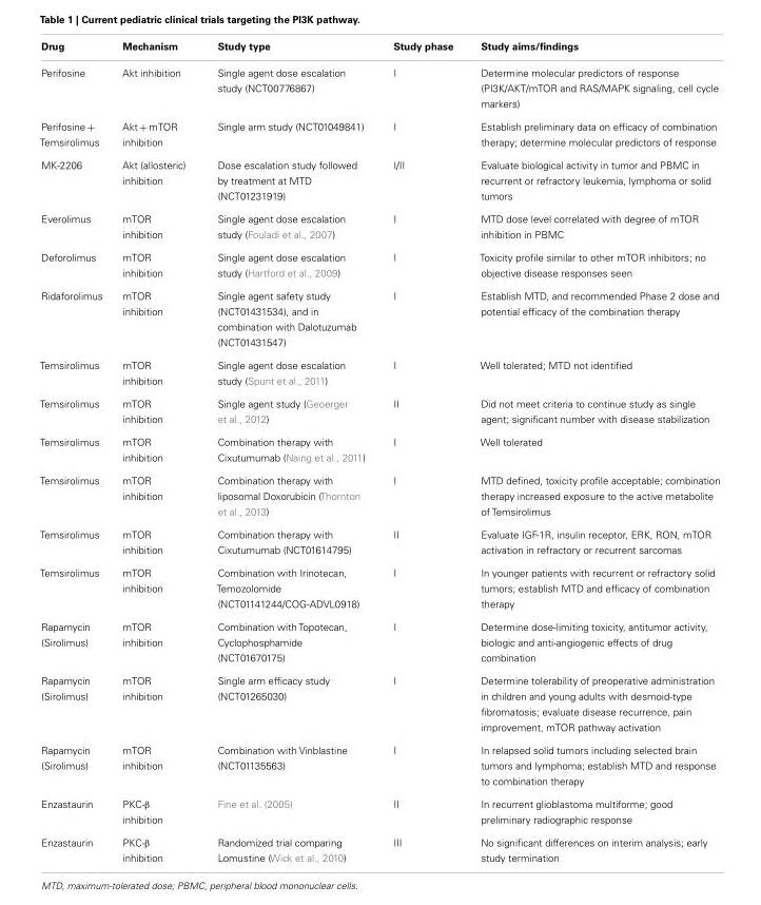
<table><thead><tr><td>Drug</td><td>Mechanism</td><td>Study type</td><td>Study phase</td><td>Study aims/findings</td></tr></thead><tbody><tr><td>Perifosine</td><td>Akt inhibition</td><td>Single agent dose escalation study (NCT00776867)</td><td>I</td><td>Determine molecular predictors of response (PI3K/AKT/mTOR and RAS/MAPK signaling, cell cycle markers)</td></tr><tr><td>Perifosine + Temsirolimus</td><td>Akt + mTOR inhibition</td><td>Single arm study (NCT01049841)</td><td>I</td><td>Establish preliminary data on efficacy of combination therapy; determine molecular predictors of response</td></tr><tr><td>MK-2206</td><td>Akt (allosteric) inhibition</td><td>Dose escalation study followed by treatment at MTD (NCT01231919)</td><td>I/II</td><td>Evaluate biological activity in tumor and PBMC in recurrent or refractory leukemia, lymphoma or solid tumors</td></tr><tr><td>Everolimus</td><td>mTOR inhibition</td><td>Single agent dose escalation study (Fouladi et al., 2007)</td><td>I</td><td>MTD dose level correlated with degree of mTOR inhibition in PBMC</td></tr><tr><td>Deforolimus</td><td>mTOR inhibition</td><td>Single agent dose escalation study (Hartford et al., 2009)</td><td>I</td><td>Toxicity profile similar to other mTOR inhibitors; no objective disease responses seen</td></tr><tr><td>Ridaforolimus</td><td>mTOR inhibition</td><td>Single agent safety study (NCT01431534), and in combination with Dalotuzumab (NCT01431547)</td><td>I</td><td>Establish MTD, and recommended Phase 2 dose and potential efficacy of the combination therapy</td></tr><tr><td>Temsirolimus</td><td>mTOR inhibition</td><td>Single agent dose escalation study (Spunt et al., 2011)</td><td>I</td><td>Well tolerated; MTD not identified</td></tr><tr><td>Temsirolimus</td><td>mTOR inhibition</td><td>Single agent study (Geoerger et al., 2012)</td><td>II</td><td>Did not meet criteria to continue study as single agent; significant number with disease stabilization</td></tr><tr><td>Temsirolimus</td><td>mTOR inhibition</td><td>Combination therapy with Cixutumumab (Naing et al., 2011)</td><td>I</td><td>Well tolerated</td></tr><tr><td>Temsirolimus</td><td>mTOR inhibition</td><td>Combination therapy with liposomal Doxorubicin (Thornton et al., 2013)</td><td>I</td><td>MTD defined, toxicity profile acceptable; combination therapy increased exposure to the active metabolite of Temsirolimus</td></tr><tr><td>Temsirolimus</td><td>mTOR inhibition</td><td>Combination therapy with Cixutumumab (NCT01614795)</td><td>II</td><td>Evaluate IGF-1R, insulin receptor, ERK, RON, mTOR activation in refractory or recurrent sarcomas</td></tr><tr><td>Temsirolimus</td><td>mTOR inhibition</td><td>Combination with Irinotecan, Temozolomide (NCT01141244/COG-ADVL0918)</td><td>I</td><td>In younger patients with recurrent or refractory solid tumors; establish MTD and efficacy of combination therapy</td></tr><tr><td>Rapamycin (Sirolimus)</td><td>mTOR inhibition</td><td>Combination with Topotecan, Cyclophosphamide (NCT01670175)</td><td>I</td><td>Determine dose-limiting toxicity, antitumor activity, biologic and anti-angiogenic effects of drug combination</td></tr><tr><td>Rapamycin (Sirolimus)</td><td>mTOR inhibition</td><td>Single arm efficacy study (NCT01265030)</td><td>I</td><td>Determine tolerability of preoperative administration in children and young adults with desmoid-type fibromatosis; evaluate disease recurrence, pain improvement, mTOR pathway activation</td></tr><tr><td>Rapamycin (Sirolimus)</td><td>mTOR inhibition</td><td>Combination with Vinblastine (NCT01135563)</td><td>I</td><td>In relapsed solid tumors including selected brain tumors and lymphoma; establish MTD and response to combination therapy</td></tr><tr><td>Enzastaurin</td><td>PKC-β inhibition</td><td>Fine et al. (2005)</td><td>II</td><td>In recurrent glioblastoma multiforme; good preliminary radiographic response</td></tr><tr><td>Enzastaurin</td><td>PKC-β inhibition</td><td>Randomized trial comparing Lomustine (Wick et al., 2010)</td><td>III</td><td>No significant differences on interim analysis; early study termination</td></tr></tbody></table>